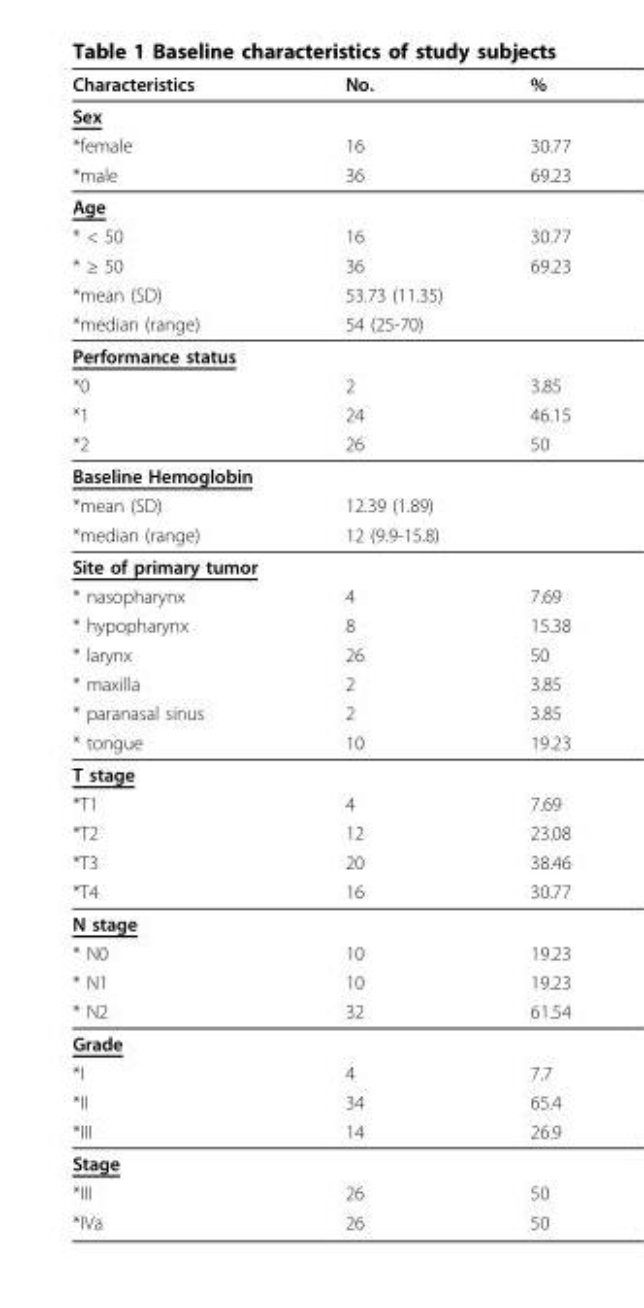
<table><thead><tr><td>Characteristics</td><td>No.</td><td>%</td></tr></thead><tbody><tr><td colspan="3">Sex</td></tr><tr><td>*female</td><td>16</td><td>30.77</td></tr><tr><td>*male</td><td>36</td><td>69.23</td></tr><tr><td colspan="3">Age</td></tr><tr><td>* &lt; 50</td><td>16</td><td>30.77</td></tr><tr><td>* ≥ 50</td><td>36</td><td>69.23</td></tr><tr><td>*mean (SD)</td><td>53.73 (11.35)</td><td></td></tr><tr><td>*median (range)</td><td>54 (25-70)</td><td></td></tr><tr><td colspan="3">Performance status</td></tr><tr><td>*0</td><td>2</td><td>3.85</td></tr><tr><td>*1</td><td>24</td><td>46.15</td></tr><tr><td>*2</td><td>26</td><td>50</td></tr><tr><td colspan="3">Baseline Hemoglobin</td></tr><tr><td>*mean (SD)</td><td>12.39 (1.89)</td><td></td></tr><tr><td>*median (range)</td><td>12 (9.9-15.8)</td><td></td></tr><tr><td colspan="3">Site of primary tumor</td></tr><tr><td>* nasopharynx</td><td>4</td><td>7.69</td></tr><tr><td>* hypopharynx</td><td>8</td><td>15.38</td></tr><tr><td>* larynx</td><td>26</td><td>50</td></tr><tr><td>* maxilla</td><td>2</td><td>3.85</td></tr><tr><td>* paranasal sinus</td><td>2</td><td>3.85</td></tr><tr><td>* tongue</td><td>10</td><td>19.23</td></tr><tr><td colspan="3">T stage</td></tr><tr><td>*T1</td><td>4</td><td>7.69</td></tr><tr><td>*T2</td><td>12</td><td>23.08</td></tr><tr><td>*T3</td><td>20</td><td>38.46</td></tr><tr><td>*T4</td><td>16</td><td>30.77</td></tr><tr><td colspan="3">N stage</td></tr><tr><td>* N0</td><td>10</td><td>19.23</td></tr><tr><td>* N1</td><td>10</td><td>19.23</td></tr><tr><td>* N2</td><td>32</td><td>61.54</td></tr><tr><td colspan="3">Grade</td></tr><tr><td>*I</td><td>4</td><td>7.7</td></tr><tr><td>*II</td><td>34</td><td>65.4</td></tr><tr><td>*III</td><td>14</td><td>26.9</td></tr><tr><td colspan="3">Stage</td></tr><tr><td>*III</td><td>26</td><td>50</td></tr><tr><td>*IVa</td><td>26</td><td>50</td></tr></tbody></table>